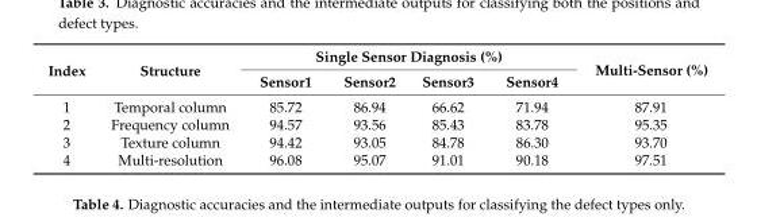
<table><thead><tr><td rowspan="2">Index</td><td rowspan="2">Structure</td><td colspan="4">Single Sensor Diagnosis (%)</td><td rowspan="2">Multi-Sensor (%)</td></tr><tr><td>Sensor1</td><td>Sensor2</td><td>Sensor3</td><td>Sensor4</td></tr></thead><tbody><tr><td>1</td><td>Temporal column</td><td>85.72</td><td>86.94</td><td>66.62</td><td>71.94</td><td>87.91</td></tr><tr><td>2</td><td>Frequency column</td><td>94.57</td><td>93.56</td><td>85.43</td><td>83.78</td><td>95.35</td></tr><tr><td>3</td><td>Texture column</td><td>94.42</td><td>93.05</td><td>84.78</td><td>86.30</td><td>93.70</td></tr><tr><td>4</td><td>Multi-resolution</td><td>96.08</td><td>95.07</td><td>91.01</td><td>90.18</td><td>97.51</td></tr></tbody></table>